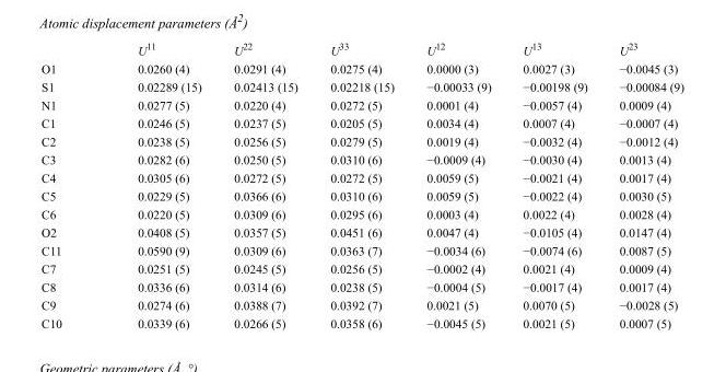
<table><thead><tr><td></td><td>U<sup>11</sup></td><td>U<sup>22</sup></td><td>U<sup>33</sup></td><td>U<sup>12</sup></td><td>U<sup>13</sup></td><td>U<sup>23</sup></td></tr></thead><tbody><tr><td>O1</td><td>0.0260 (4)</td><td>0.0291 (4)</td><td>0.0275 (4)</td><td>0.0000 (3)</td><td>0.0027 (3)</td><td>−0.0045 (3)</td></tr><tr><td>S1</td><td>0.02289 (15)</td><td>0.02413 (15)</td><td>0.02218 (15)</td><td>−0.00033 (9)</td><td>−0.00198 (9)</td><td>−0.00084 (9)</td></tr><tr><td>N1</td><td>0.0277 (5)</td><td>0.0220 (4)</td><td>0.0272 (5)</td><td>0.0001 (4)</td><td>−0.0057 (4)</td><td>0.0009 (4)</td></tr><tr><td>C1</td><td>0.0246 (5)</td><td>0.0237 (5)</td><td>0.0205 (5)</td><td>0.0034 (4)</td><td>0.0007 (4)</td><td>−0.0007 (4)</td></tr><tr><td>C2</td><td>0.0238 (5)</td><td>0.0256 (5)</td><td>0.0279 (5)</td><td>0.0019 (4)</td><td>−0.0032 (4)</td><td>−0.0012 (4)</td></tr><tr><td>C3</td><td>0.0282 (6)</td><td>0.0250 (5)</td><td>0.0310 (6)</td><td>−0.0009 (4)</td><td>−0.0030 (4)</td><td>0.0013 (4)</td></tr><tr><td>C4</td><td>0.0305 (6)</td><td>0.0272 (5)</td><td>0.0272 (5)</td><td>0.0059 (5)</td><td>−0.0021 (4)</td><td>0.0017 (4)</td></tr><tr><td>C5</td><td>0.0229 (5)</td><td>0.0366 (6)</td><td>0.0310 (6)</td><td>0.0059 (5)</td><td>−0.0022 (4)</td><td>0.0030 (5)</td></tr><tr><td>C6</td><td>0.0220 (5)</td><td>0.0309 (6)</td><td>0.0295 (6)</td><td>0.0003 (4)</td><td>0.0022 (4)</td><td>0.0028 (4)</td></tr><tr><td>O2</td><td>0.0408 (5)</td><td>0.0357 (5)</td><td>0.0451 (6)</td><td>0.0047 (4)</td><td>−0.0105 (4)</td><td>0.0147 (4)</td></tr><tr><td>C11</td><td>0.0590 (9)</td><td>0.0309 (6)</td><td>0.0363 (7)</td><td>−0.0034 (6)</td><td>−0.0074 (6)</td><td>0.0087 (5)</td></tr><tr><td>C7</td><td>0.0251 (5)</td><td>0.0245 (5)</td><td>0.0256 (5)</td><td>−0.0002 (4)</td><td>0.0021 (4)</td><td>0.0009 (4)</td></tr><tr><td>C8</td><td>0.0336 (6)</td><td>0.0314 (6)</td><td>0.0238 (5)</td><td>−0.0004 (5)</td><td>−0.0017 (4)</td><td>0.0017 (4)</td></tr><tr><td>C9</td><td>0.0274 (6)</td><td>0.0388 (7)</td><td>0.0392 (7)</td><td>0.0021 (5)</td><td>0.0070 (5)</td><td>−0.0028 (5)</td></tr><tr><td>C10</td><td>0.0339 (6)</td><td>0.0266 (5)</td><td>0.0358 (6)</td><td>−0.0045 (5)</td><td>0.0021 (5)</td><td>0.0007 (5)</td></tr></tbody></table>